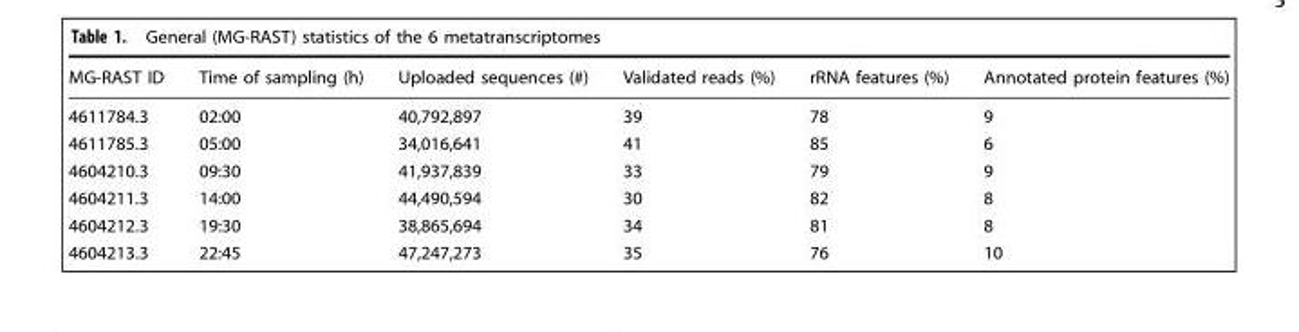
<table><thead><tr><td>MG-RAST ID</td><td>Time of sampling (h)</td><td>Uploaded sequences (#)</td><td>Validated reads (%)</td><td>rRNA features (%)</td><td>Annotated protein features (%)</td></tr></thead><tbody><tr><td>4611784.3</td><td>02:00</td><td>40,792,897</td><td>39</td><td>78</td><td>9</td></tr><tr><td>4611785.3</td><td>05:00</td><td>34,016,641</td><td>41</td><td>85</td><td>6</td></tr><tr><td>4604210.3</td><td>09:30</td><td>41,937,839</td><td>33</td><td>79</td><td>9</td></tr><tr><td>4604211.3</td><td>14:00</td><td>44,490,594</td><td>30</td><td>82</td><td>8</td></tr><tr><td>4604212.3</td><td>19:30</td><td>38,865,694</td><td>34</td><td>81</td><td>8</td></tr><tr><td>4604213.3</td><td>22:45</td><td>47,247,273</td><td>35</td><td>76</td><td>10</td></tr></tbody></table>